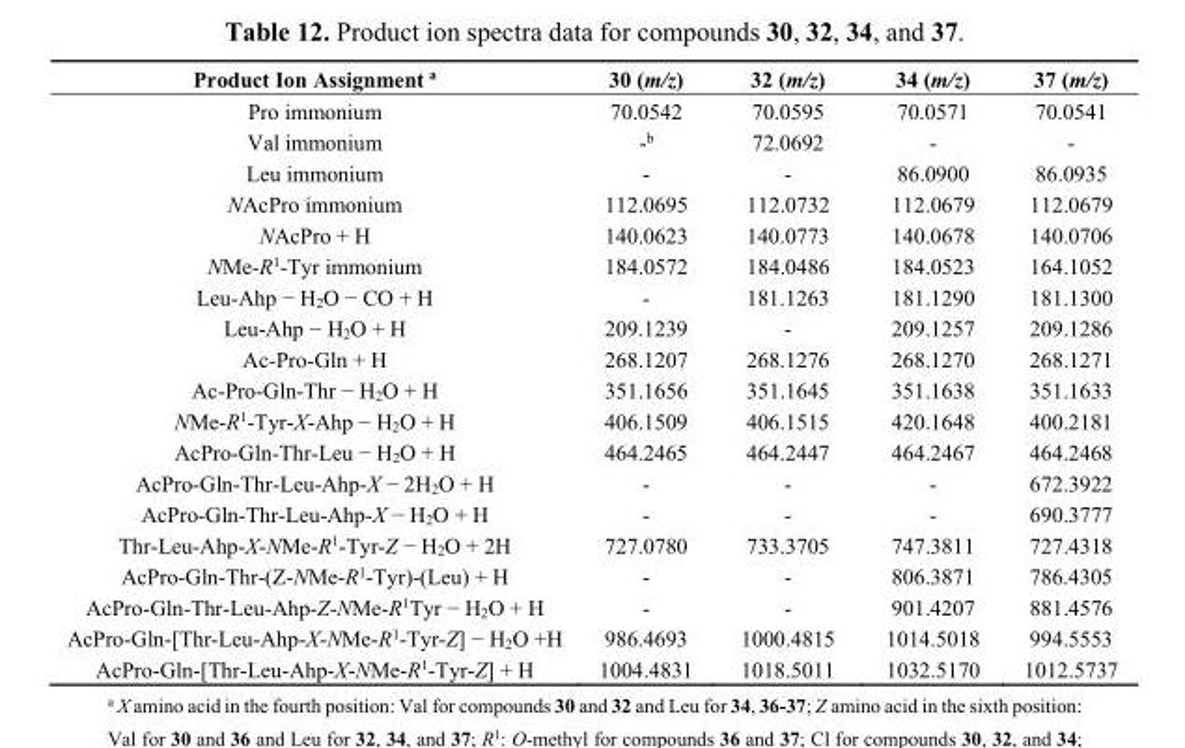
<table><thead><tr><td>Product Ion Assignment <sup>a</sup></td><td>30 (m/z)</td><td>32 (m/z)</td><td>34 (m/z)</td><td>37 (m/z)</td></tr></thead><tbody><tr><td>Pro immonium</td><td>70.0542</td><td>70.0595</td><td>70.0571</td><td>70.0541</td></tr><tr><td>Val immonium</td><td>-<sup>b</sup></td><td>72.0692</td><td>-</td><td>-</td></tr><tr><td>Leu immonium</td><td>-</td><td>-</td><td>86.0900</td><td>86.0935</td></tr><tr><td>NAcPro immonium</td><td>112.0695</td><td>112.0732</td><td>112.0679</td><td>112.0679</td></tr><tr><td>NAcPro + H</td><td>140.0623</td><td>140.0773</td><td>140.0678</td><td>140.0706</td></tr><tr><td>NMe-R<sup>1</sup>-Tyr immonium</td><td>184.0572</td><td>184.0486</td><td>184.0523</td><td>164.1052</td></tr><tr><td>Leu-Ahp − H<sub>2</sub>O − CO + H</td><td>-</td><td>181.1263</td><td>181.1290</td><td>181.1300</td></tr><tr><td>Leu-Ahp − H<sub>2</sub>O + H</td><td>209.1239</td><td>-</td><td>209.1257</td><td>209.1286</td></tr><tr><td>Ac-Pro-Gln + H</td><td>268.1207</td><td>268.1276</td><td>268.1270</td><td>268.1271</td></tr><tr><td>Ac-Pro-Gln-Thr − H<sub>2</sub>O + H</td><td>351.1656</td><td>351.1645</td><td>351.1638</td><td>351.1633</td></tr><tr><td>NMe-R<sup>1</sup>-Tyr-X-Ahp − H<sub>2</sub>O + H</td><td>406.1509</td><td>406.1515</td><td>420.1648</td><td>400.2181</td></tr><tr><td>AcPro-Gln-Thr-Leu − H<sub>2</sub>O + H</td><td>464.2465</td><td>464.2447</td><td>464.2467</td><td>464.2468</td></tr><tr><td>AcPro-Gln-Thr-Leu-Ahp-X − 2H<sub>2</sub>O + H</td><td>-</td><td>-</td><td>-</td><td>672.3922</td></tr><tr><td>AcPro-Gln-Thr-Leu-Ahp-X − H<sub>2</sub>O + H</td><td>-</td><td>-</td><td>-</td><td>690.3777</td></tr><tr><td>Thr-Leu-Ahp-X-NMe-R<sup>1</sup>-Tyr-Z − H<sub>2</sub>O + 2H</td><td>727.0780</td><td>733.3705</td><td>747.3811</td><td>727.4318</td></tr><tr><td>AcPro-Gln-Thr-(Z-NMe-R<sup>1</sup>-Tyr)-(Leu) + H</td><td>-</td><td>-</td><td>806.3871</td><td>786.4305</td></tr><tr><td>AcPro-Gln-Thr-Leu-Ahp-Z-NMe-R<sup>1</sup>Tyr − H<sub>2</sub>O + H</td><td>-</td><td>-</td><td>901.4207</td><td>881.4576</td></tr><tr><td>AcPro-Gln-[Thr-Leu-Ahp-X-NMe-R<sup>1</sup>-Tyr-Z] − H<sub>2</sub>O +H</td><td>986.4693</td><td>1000.4815</td><td>1014.5018</td><td>994.5553</td></tr><tr><td>AcPro-Gln-[Thr-Leu-Ahp-X-NMe-R<sup>1</sup>-Tyr-Z] + H</td><td>1004.4831</td><td>1018.5011</td><td>1032.5170</td><td>1012.5737</td></tr></tbody></table>